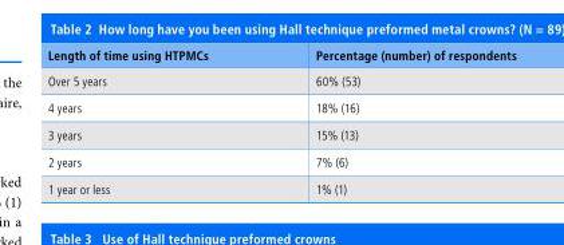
<table><thead><tr><td>Length of time using HTPMCs</td><td>Percentage (number) of respondents</td></tr></thead><tbody><tr><td>Over 5 years</td><td>60% (53)</td></tr><tr><td>4 years</td><td>18% (16)</td></tr><tr><td>3 years</td><td>15% (13)</td></tr><tr><td>2 years</td><td>7% (6)</td></tr><tr><td>1 year or less</td><td>1% (1)</td></tr></tbody></table>